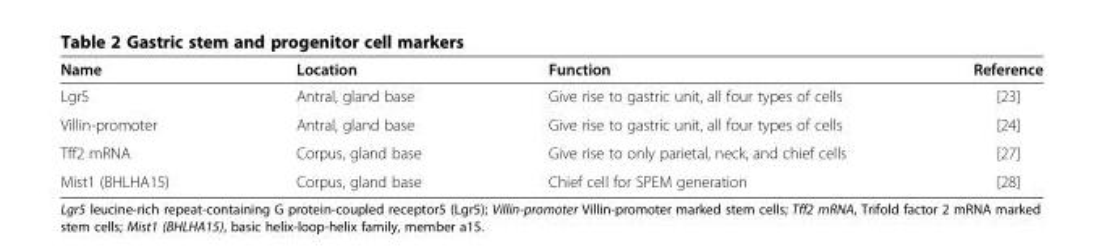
<table><thead><tr><td>Name</td><td>Location</td><td>Function</td><td>Reference</td></tr></thead><tbody><tr><td>Lgr5</td><td>Antral, gland base</td><td>Give rise to gastric unit, all four types of cells</td><td>[23]</td></tr><tr><td>Villin-promoter</td><td>Antral, gland base</td><td>Give rise to gastric unit, all four types of cells</td><td>[24]</td></tr><tr><td>Tff2 mRNA</td><td>Corpus, gland base</td><td>Give rise to only parietal, neck, and chief cells</td><td>[27]</td></tr><tr><td>Mist1 (BHLHA15)</td><td>Corpus, gland base</td><td>Chief cell for SPEM generation</td><td>[28]</td></tr></tbody></table>